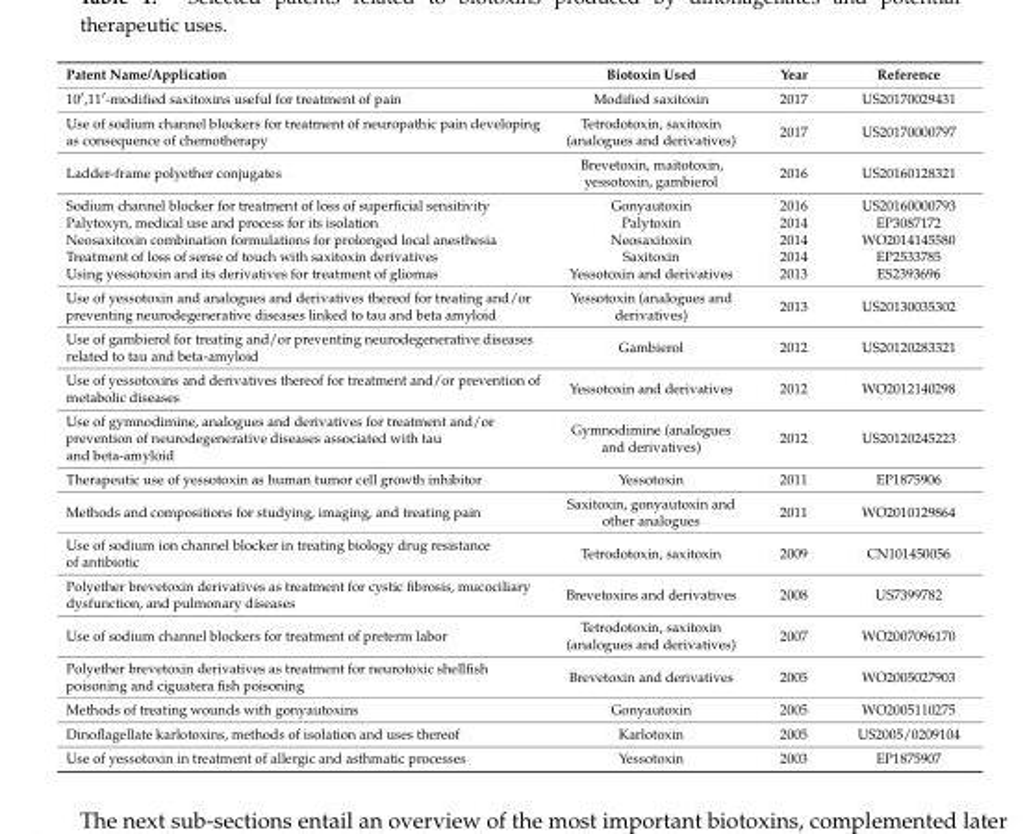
<table><thead><tr><td>Patent Name/Application</td><td>Biotoxin Used</td><td>Year</td><td>Reference</td></tr></thead><tbody><tr><td>10′,11′-modified saxitoxins useful for treatment of pain</td><td>Modified saxitoxin</td><td>2017</td><td>US20170029431</td></tr><tr><td>Use of sodium channel blockers for treatment of neuropathic pain developing as consequence of chemotherapy</td><td>Tetrodotoxin, saxitoxin (analogues and derivatives)</td><td>2017</td><td>US20170000797</td></tr><tr><td>Ladder-frame polyether conjugates</td><td>Brevetoxin, maitotoxin, yessotoxin, gambierol</td><td>2016</td><td>US20160128321</td></tr><tr><td>Sodium channel blocker for treatment of loss of superficial sensitivity</td><td>Gonyautoxin</td><td>2016</td><td>US20160000793</td></tr><tr><td>Palytoxyn, medical use and process for its isolation</td><td>Palytoxin</td><td>2014</td><td>EP3087172</td></tr><tr><td>Neosaxitoxin combination formulations for prolonged local anesthesia</td><td>Neosaxitoxin</td><td>2014</td><td>WO2014145580</td></tr><tr><td>Treatment of loss of sense of touch with saxitoxin derivatives</td><td>Saxitoxin</td><td>2014</td><td>EP2533785</td></tr><tr><td>Using yessotoxin and its derivatives for treatment of gliomas</td><td>Yessotoxin and derivatives</td><td>2013</td><td>ES2393696</td></tr><tr><td>Use of yessotoxin and analogues and derivatives thereof for treating and/or preventing neurodegenerative diseases linked to tau and beta amyloid</td><td>Yessotoxin (analogues and derivatives)</td><td>2013</td><td>US20130035302</td></tr><tr><td>Use of gambierol for treating and/or preventing neurodegenerative diseases related to tau and beta-amyloid</td><td>Gambierol</td><td>2012</td><td>US20120283321</td></tr><tr><td>Use of yessotoxins and derivatives thereof for treatment and/or prevention of metabolic diseases</td><td>Yessotoxin and derivatives</td><td>2012</td><td>WO2012140298</td></tr><tr><td>Use of gymnodimine, analogues and derivatives for treatment and/or prevention of neurodegenerative diseases associated with tau and beta-amyloid</td><td>Gymnodimine (analogues and derivatives)</td><td>2012</td><td>US20120245223</td></tr><tr><td>Therapeutic use of yessotoxin as human tumor cell growth inhibitor</td><td>Yessotoxin</td><td>2011</td><td>EP1875906</td></tr><tr><td>Methods and compositions for studying, imaging, and treating pain</td><td>Saxitoxin, gonyautoxin and other analogues</td><td>2011</td><td>WO2010129864</td></tr><tr><td>Use of sodium ion channel blocker in treating biology drug resistance of antibiotic</td><td>Tetrodotoxin, saxitoxin</td><td>2009</td><td>CN101450056</td></tr><tr><td>Polyether brevetoxin derivatives as treatment for cystic fibrosis, mucociliary dysfunction, and pulmonary diseases</td><td>Brevetoxins and derivatives</td><td>2008</td><td>US7399782</td></tr><tr><td>Use of sodium channel blockers for treatment of preterm labor</td><td>Tetrodotoxin, saxitoxin (analogues and derivatives)</td><td>2007</td><td>WO2007096170</td></tr><tr><td>Polyether brevetoxin derivatives as treatment for neurotoxic shellfish poisoning and ciguatera fish poisoning</td><td>Brevetoxin and derivatives</td><td>2005</td><td>WO2005027903</td></tr><tr><td>Methods of treating wounds with gonyautoxins</td><td>Gonyautoxin</td><td>2005</td><td>WO2005110275</td></tr><tr><td>Dinoflagellate karlotoxins, methods of isolation and uses thereof</td><td>Karlotoxin</td><td>2005</td><td>US2005/0209104</td></tr><tr><td>Use of yessotoxin in treatment of allergic and asthmatic processes</td><td>Yessotoxin</td><td>2003</td><td>EP1875907</td></tr></tbody></table>